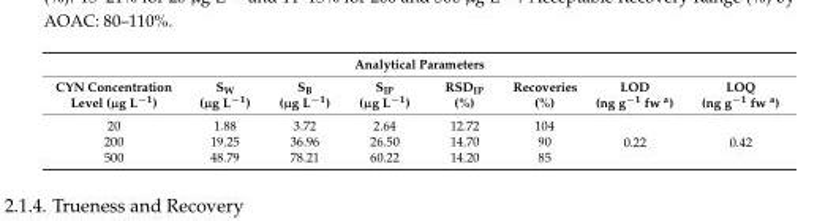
<table><thead><tr><td colspan="8">Analytical Parameters</td></tr><tr><td>CYN Concentration Level (µg L<sup>−1</sup>)</td><td>S<sub>W</sub> (µg L<sup>−1</sup>)</td><td>S<sub>B</sub> (µg L<sup>−1</sup>)</td><td>S<sub>IP</sub> (µg L<sup>−1</sup>)</td><td>RSD<sub>IP</sub> (%)</td><td>Recoveries (%)</td><td>LOD (ng g<sup>−1</sup> fw <sup>a</sup>)</td><td>LOQ (ng g<sup>−1</sup> fw <sup>a</sup>)</td></tr></thead><tbody><tr><td>20</td><td>1.88</td><td>3.72</td><td>2.64</td><td>12.72</td><td>104</td><td rowspan="3">0.22</td><td rowspan="3">0.42</td></tr><tr><td>200</td><td>19.25</td><td>36.96</td><td>26.50</td><td>14.70</td><td>90</td></tr><tr><td>500</td><td>48.79</td><td>78.21</td><td>60.22</td><td>14.20</td><td>85</td></tr></tbody></table>